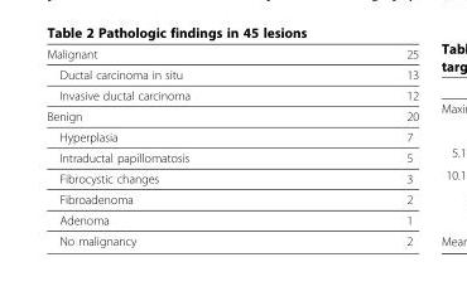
<table><tbody><tr><td>Malignant</td><td>25</td></tr><tr><td>Ductal carcinoma in situ</td><td>13</td></tr><tr><td>Invasive ductal carcinoma</td><td>12</td></tr><tr><td>Benign</td><td>20</td></tr><tr><td>Hyperplasia</td><td>7</td></tr><tr><td>Intraductal papillomatosis</td><td>5</td></tr><tr><td>Fibrocystic changes</td><td>3</td></tr><tr><td>Fibroadenoma</td><td>2</td></tr><tr><td>Adenoma</td><td>1</td></tr><tr><td>No malignancy</td><td>2</td></tr></tbody></table>